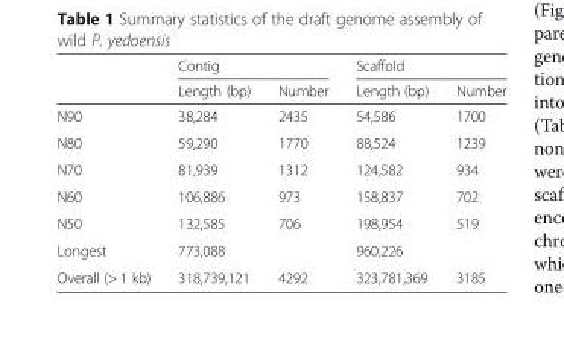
<table><thead><tr><td rowspan="2"></td><td colspan="2">Contig</td><td colspan="2">Scaffold</td></tr><tr><td>Length (bp)</td><td>Number</td><td>Length (bp)</td><td>Number</td></tr></thead><tbody><tr><td>N90</td><td>38,284</td><td>2435</td><td>54,586</td><td>1700</td></tr><tr><td>N80</td><td>59,290</td><td>1770</td><td>88,524</td><td>1239</td></tr><tr><td>N70</td><td>81,939</td><td>1312</td><td>124,582</td><td>934</td></tr><tr><td>N60</td><td>106,886</td><td>973</td><td>158,837</td><td>702</td></tr><tr><td>N50</td><td>132,585</td><td>706</td><td>198,954</td><td>519</td></tr><tr><td>Longest</td><td>773,088</td><td></td><td>960,226</td><td></td></tr><tr><td>Overall (&gt; 1 kb)</td><td>318,739,121</td><td>4292</td><td>323,781,369</td><td>3185</td></tr></tbody></table>